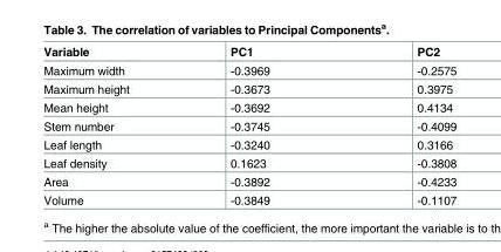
<table><thead><tr><td>Variable</td><td>PC1</td><td>PC2</td></tr></thead><tbody><tr><td>Maximum width</td><td>-0.3969</td><td>-0.2575</td></tr><tr><td>Maximum height</td><td>-0.3673</td><td>0.3975</td></tr><tr><td>Mean height</td><td>-0.3692</td><td>0.4134</td></tr><tr><td>Stem number</td><td>-0.3745</td><td>-0.4099</td></tr><tr><td>Leaf length</td><td>-0.3240</td><td>0.3166</td></tr><tr><td>Leaf density</td><td>0.1623</td><td>-0.3808</td></tr><tr><td>Area</td><td>-0.3892</td><td>-0.4233</td></tr><tr><td>Volume</td><td>-0.3849</td><td>-0.1107</td></tr></tbody></table>